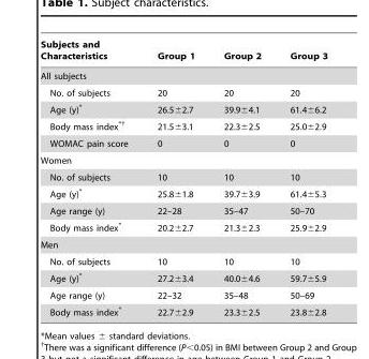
<table><thead><tr><td>Subjects and Characteristics</td><td>Group 1</td><td>Group 2</td><td>Group 3</td></tr></thead><tbody><tr><td colspan="4">All subjects</td></tr><tr><td>No. of subjects</td><td>20</td><td>20</td><td>20</td></tr><tr><td>Age (y)*</td><td>26.5±2.7</td><td>39.9±4.1</td><td>61.4±6.2</td></tr><tr><td>Body mass index*†</td><td>21.5±3.1</td><td>22.3±2.5</td><td>25.0±2.9</td></tr><tr><td>WOMAC pain score</td><td>0</td><td>0</td><td>0</td></tr><tr><td colspan="4">Women</td></tr><tr><td>No. of subjects</td><td>10</td><td>10</td><td>10</td></tr><tr><td>Age (y)*</td><td>25.8±1.8</td><td>39.7±3.9</td><td>61.4±5.3</td></tr><tr><td>Age range (y)</td><td>22–28</td><td>35–47</td><td>50–70</td></tr><tr><td>Body mass index*</td><td>20.2±2.7</td><td>21.3±2.3</td><td>25.9±2.9</td></tr><tr><td colspan="4">Men</td></tr><tr><td>No. of subjects</td><td>10</td><td>10</td><td>10</td></tr><tr><td>Age (y)*</td><td>27.2±3.4</td><td>40.0±4.6</td><td>59.7±5.9</td></tr><tr><td>Age range (y)</td><td>22–32</td><td>35–48</td><td>50–69</td></tr><tr><td>Body mass index*</td><td>22.7±2.9</td><td>23.3±2.5</td><td>23.8±2.8</td></tr></tbody></table>